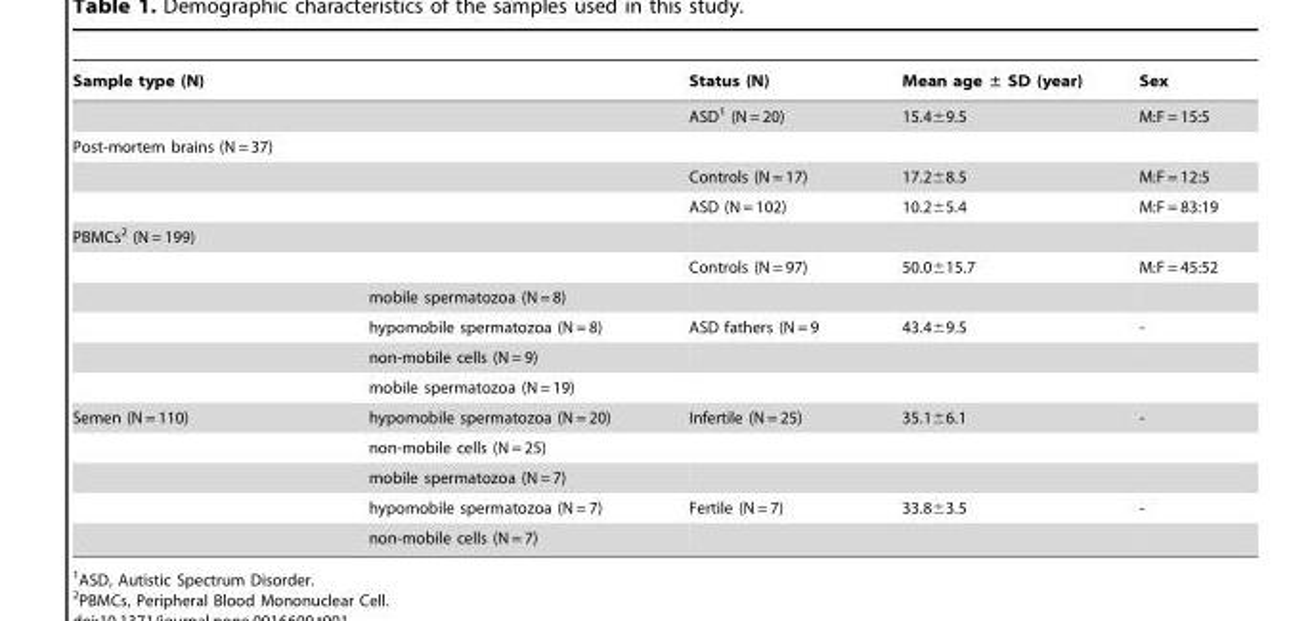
<table><thead><tr><td colspan="2">Sample type (N)</td><td>Status (N)</td><td>Mean age ± SD (year)</td><td>Sex</td></tr></thead><tbody><tr><td colspan="2"></td><td>ASD<sup>1</sup> (N = 20)</td><td>15.4±9.5</td><td>M:F = 15:5</td></tr><tr><td colspan="5">Post-mortem brains (N = 37)</td></tr><tr><td colspan="2"></td><td>Controls (N = 17)</td><td>17.2±8.5</td><td>M:F = 12:5</td></tr><tr><td colspan="2"></td><td>ASD (N = 102)</td><td>10.2±5.4</td><td>M:F = 83:19</td></tr><tr><td colspan="5">PBMCs<sup>2</sup> (N = 199)</td></tr><tr><td colspan="2"></td><td>Controls (N = 97)</td><td>50.0±15.7</td><td>M:F = 45:52</td></tr><tr><td></td><td>mobile spermatozoa (N = 8)</td><td></td><td></td><td></td></tr><tr><td></td><td>hypomobile spermatozoa (N = 8)</td><td>ASD fathers (N = 9</td><td>43.4±9.5</td><td>-</td></tr><tr><td></td><td>non-mobile cells (N = 9)</td><td></td><td></td><td></td></tr><tr><td></td><td>mobile spermatozoa (N = 19)</td><td></td><td></td><td></td></tr><tr><td rowspan="5">Semen (N = 110)</td><td>hypomobile spermatozoa (N = 20)</td><td>Infertile (N = 25)</td><td>35.1±6.1</td><td>-</td></tr><tr><td>non-mobile cells (N = 25)</td><td></td><td></td><td></td></tr><tr><td>mobile spermatozoa (N = 7)</td><td></td><td></td><td></td></tr><tr><td>hypomobile spermatozoa (N = 7)</td><td>Fertile (N = 7)</td><td>33.8±3.5</td><td>-</td></tr><tr><td>non-mobile cells (N = 7)</td><td></td><td></td><td></td></tr></tbody></table>